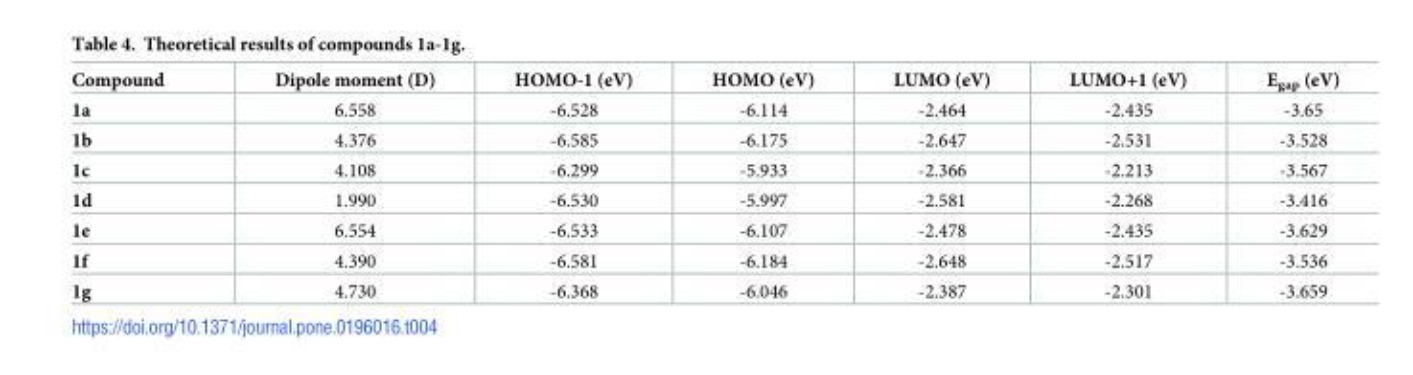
<table><thead><tr><td>Compound</td><td>Dipole moment (D)</td><td>HOMO-1 (eV)</td><td>HOMO (eV)</td><td>LUMO (eV)</td><td>LUMO+1 (eV)</td><td>E<sub>gap</sub> (eV)</td></tr></thead><tbody><tr><td>1a</td><td>6.558</td><td>-6.528</td><td>-6.114</td><td>-2.464</td><td>-2.435</td><td>-3.65</td></tr><tr><td>1b</td><td>4.376</td><td>-6.585</td><td>-6.175</td><td>-2.647</td><td>-2.531</td><td>-3.528</td></tr><tr><td>1c</td><td>4.108</td><td>-6.299</td><td>-5.933</td><td>-2.366</td><td>-2.213</td><td>-3.567</td></tr><tr><td>1d</td><td>1.990</td><td>-6.530</td><td>-5.997</td><td>-2.581</td><td>-2.268</td><td>-3.416</td></tr><tr><td>1e</td><td>6.554</td><td>-6.533</td><td>-6.107</td><td>-2.478</td><td>-2.435</td><td>-3.629</td></tr><tr><td>1f</td><td>4.390</td><td>-6.581</td><td>-6.184</td><td>-2.648</td><td>-2.517</td><td>-3.536</td></tr><tr><td>1g</td><td>4.730</td><td>-6.368</td><td>-6.046</td><td>-2.387</td><td>-2.301</td><td>-3.659</td></tr></tbody></table>